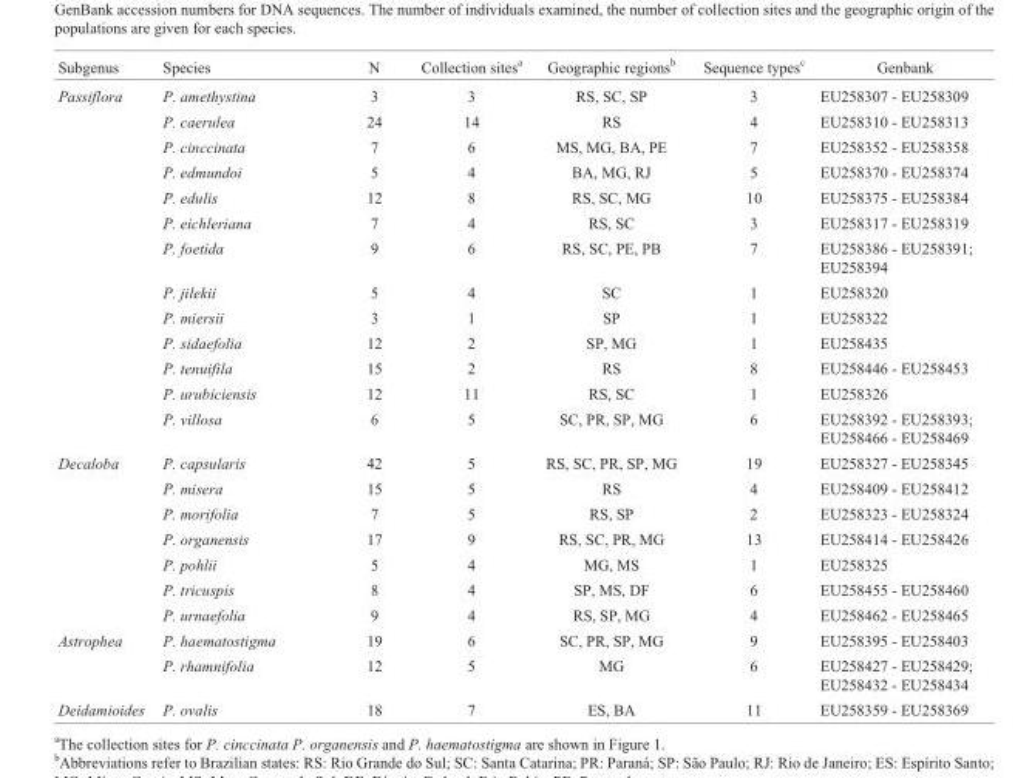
<table><thead><tr><td>Subgenus</td><td>Species</td><td>N</td><td>Collection sites<sup>a</sup></td><td>Geographic regions<sup>b</sup></td><td>Sequence types<sup>c</sup></td><td>Genbank</td></tr></thead><tbody><tr><td rowspan="13">Passiflora</td><td>P. amethystina</td><td>3</td><td>3</td><td>RS, SC, SP</td><td>3</td><td>EU258307 - EU258309</td></tr><tr><td>P. caerulea</td><td>24</td><td>14</td><td>RS</td><td>4</td><td>EU258310 - EU258313</td></tr><tr><td>P. cinccinata</td><td>7</td><td>6</td><td>MS, MG, BA, PE</td><td>7</td><td>EU258352 - EU258358</td></tr><tr><td>P. edmundoi</td><td>5</td><td>4</td><td>BA, MG, RJ</td><td>5</td><td>EU258370 - EU258374</td></tr><tr><td>P. edulis</td><td>12</td><td>8</td><td>RS, SC, MG</td><td>10</td><td>EU258375 - EU258384</td></tr><tr><td>P. eichleriana</td><td>7</td><td>4</td><td>RS, SC</td><td>3</td><td>EU258317 - EU258319</td></tr><tr><td>P. foetida</td><td>9</td><td>6</td><td>RS, SC, PE, PB</td><td>7</td><td>EU258386 - EU258391; EU258394</td></tr><tr><td>P. jilekii</td><td>5</td><td>4</td><td>SC</td><td>1</td><td>EU258320</td></tr><tr><td>P. miersii</td><td>3</td><td>1</td><td>SP</td><td>1</td><td>EU258322</td></tr><tr><td>P. sidaefolia</td><td>12</td><td>2</td><td>SP, MG</td><td>1</td><td>EU258435</td></tr><tr><td>P. tenuifila</td><td>15</td><td>2</td><td>RS</td><td>8</td><td>EU258446 - EU258453</td></tr><tr><td>P. urubiciensis</td><td>12</td><td>11</td><td>RS, SC</td><td>1</td><td>EU258326</td></tr><tr><td>P. villosa</td><td>6</td><td>5</td><td>SC, PR, SP, MG</td><td>6</td><td>EU258392 - EU258393; EU258466 - EU258469</td></tr><tr><td rowspan="7">Decaloba</td><td>P. capsularis</td><td>42</td><td>5</td><td>RS, SC, PR, SP, MG</td><td>19</td><td>EU258327 - EU258345</td></tr><tr><td>P. misera</td><td>15</td><td>5</td><td>RS</td><td>4</td><td>EU258409 - EU258412</td></tr><tr><td>P. morifolia</td><td>7</td><td>5</td><td>RS, SP</td><td>2</td><td>EU258323 - EU258324</td></tr><tr><td>P. organensis</td><td>17</td><td>9</td><td>RS, SC, PR, MG</td><td>13</td><td>EU258414 - EU258426</td></tr><tr><td>P. pohlii</td><td>5</td><td>4</td><td>MG, MS</td><td>1</td><td>EU258325</td></tr><tr><td>P. tricuspis</td><td>8</td><td>4</td><td>SP, MS, DF</td><td>6</td><td>EU258455 - EU258460</td></tr><tr><td>P. urnaefolia</td><td>9</td><td>4</td><td>RS, SP, MG</td><td>4</td><td>EU258462 - EU258465</td></tr><tr><td rowspan="2">Astrophea</td><td>P. haematostigma</td><td>19</td><td>6</td><td>SC, PR, SP, MG</td><td>9</td><td>EU258395 - EU258403</td></tr><tr><td>P. rhamnifolia</td><td>12</td><td>5</td><td>MG</td><td>6</td><td>EU258427 - EU258429; EU258432 - EU258434</td></tr><tr><td>Deidamioides</td><td>P. ovalis</td><td>18</td><td>7</td><td>ES, BA</td><td>11</td><td>EU258359 - EU258369</td></tr></tbody></table>